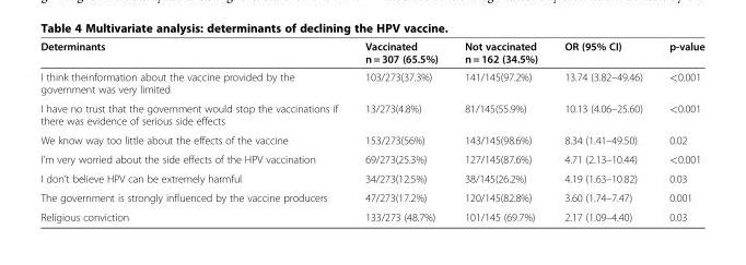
<table><thead><tr><td>Determinants</td><td>Vaccinated n = 307 (65.5%)</td><td>Not vaccinated n = 162 (34.5%)</td><td>OR (95% CI)</td><td>p-value</td></tr></thead><tbody><tr><td>I think theinformation about the vaccine provided by the government was very limited</td><td>103/273(37.3%)</td><td>141/145(97.2%)</td><td>13.74 (3.82–49.46)</td><td>&lt;0.001</td></tr><tr><td>I have no trust that the government would stop the vaccinations if there was evidence of serious side effects</td><td>13/273(4.8%)</td><td>81/145(55.9%)</td><td>10.13 (4.06–25.60)</td><td>&lt;0.001</td></tr><tr><td>We know way too little about the effects of the vaccine</td><td>153/273(56%)</td><td>143/145(98.6%)</td><td>8.34 (1.41–49.50)</td><td>0.02</td></tr><tr><td>I’m very worried about the side effects of the HPV vaccination</td><td>69/273(25.3%)</td><td>127/145(87.6%)</td><td>4.71 (2.13–10.44)</td><td>&lt;0.001</td></tr><tr><td>I don’t believe HPV can be extremely harmful</td><td>34/273(12.5%)</td><td>38/145(26.2%)</td><td>4.19 (1.63–10.82)</td><td>0.03</td></tr><tr><td>The government is strongly influenced by the vaccine producers</td><td>47/273(17.2%)</td><td>120/145(82.8%)</td><td>3.60 (1.74–7.47)</td><td>0.001</td></tr><tr><td>Religious conviction</td><td>133/273 (48.7%)</td><td>101/145 (69.7%)</td><td>2.17 (1.09–4.40)</td><td>0.03</td></tr></tbody></table>